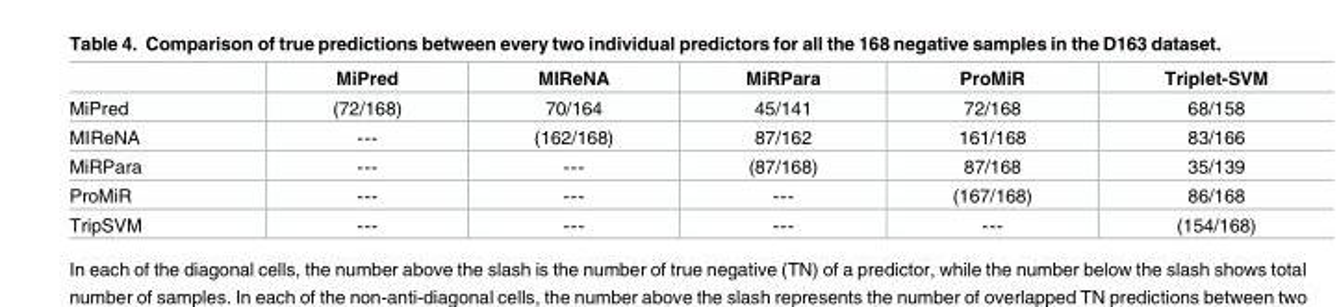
<table><thead><tr><td></td><td>MiPred</td><td>MIReNA</td><td>MiRPara</td><td>ProMiR</td><td>Triplet-SVM</td></tr></thead><tbody><tr><td>MiPred</td><td>(72/168)</td><td>70/164</td><td>45/141</td><td>72/168</td><td>68/158</td></tr><tr><td>MIReNA</td><td>---</td><td>(162/168)</td><td>87/162</td><td>161/168</td><td>83/166</td></tr><tr><td>MiRPara</td><td>---</td><td>---</td><td>(87/168)</td><td>87/168</td><td>35/139</td></tr><tr><td>ProMiR</td><td>---</td><td>---</td><td>---</td><td>(167/168)</td><td>86/168</td></tr><tr><td>TripSVM</td><td>---</td><td>---</td><td>---</td><td>---</td><td>(154/168)</td></tr></tbody></table>